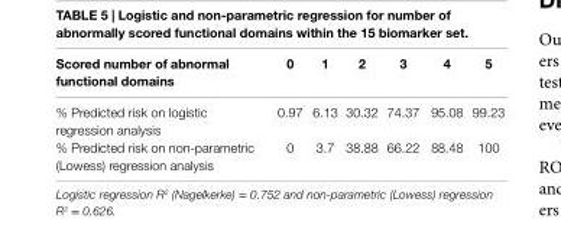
<table><thead><tr><td>scored number of abnormal functional domains</td><td>0</td><td>1</td><td>2</td><td>3</td><td>4</td><td>5</td></tr></thead><tbody><tr><td>% Predicted risk on logistic regression analysis</td><td>0.97</td><td>6.13</td><td>30.32</td><td>74.37</td><td>95.08</td><td>99.23</td></tr><tr><td>% Predicted risk on non-parametric (Lowess) regression analysis</td><td>0</td><td>3.7</td><td>38.88</td><td>66.22</td><td>88.48</td><td>100</td></tr></tbody></table>